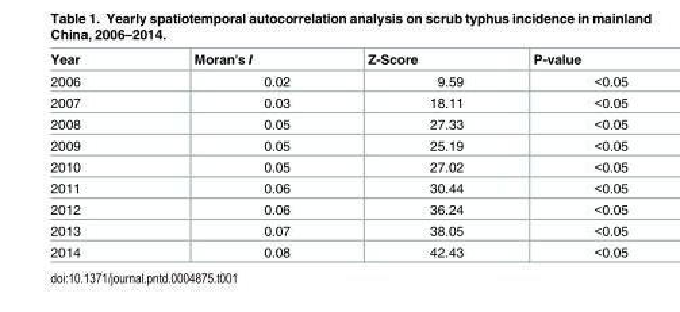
<table><thead><tr><td>Year</td><td>Moran&#x27;s I</td><td>Z-Score</td><td>P-value</td></tr></thead><tbody><tr><td>2006</td><td>0.02</td><td>9.59</td><td>&lt;0.05</td></tr><tr><td>2007</td><td>0.03</td><td>18.11</td><td>&lt;0.05</td></tr><tr><td>2008</td><td>0.05</td><td>27.33</td><td>&lt;0.05</td></tr><tr><td>2009</td><td>0.05</td><td>25.19</td><td>&lt;0.05</td></tr><tr><td>2010</td><td>0.05</td><td>27.02</td><td>&lt;0.05</td></tr><tr><td>2011</td><td>0.06</td><td>30.44</td><td>&lt;0.05</td></tr><tr><td>2012</td><td>0.06</td><td>36.24</td><td>&lt;0.05</td></tr><tr><td>2013</td><td>0.07</td><td>38.05</td><td>&lt;0.05</td></tr><tr><td>2014</td><td>0.08</td><td>42.43</td><td>&lt;0.05</td></tr></tbody></table>